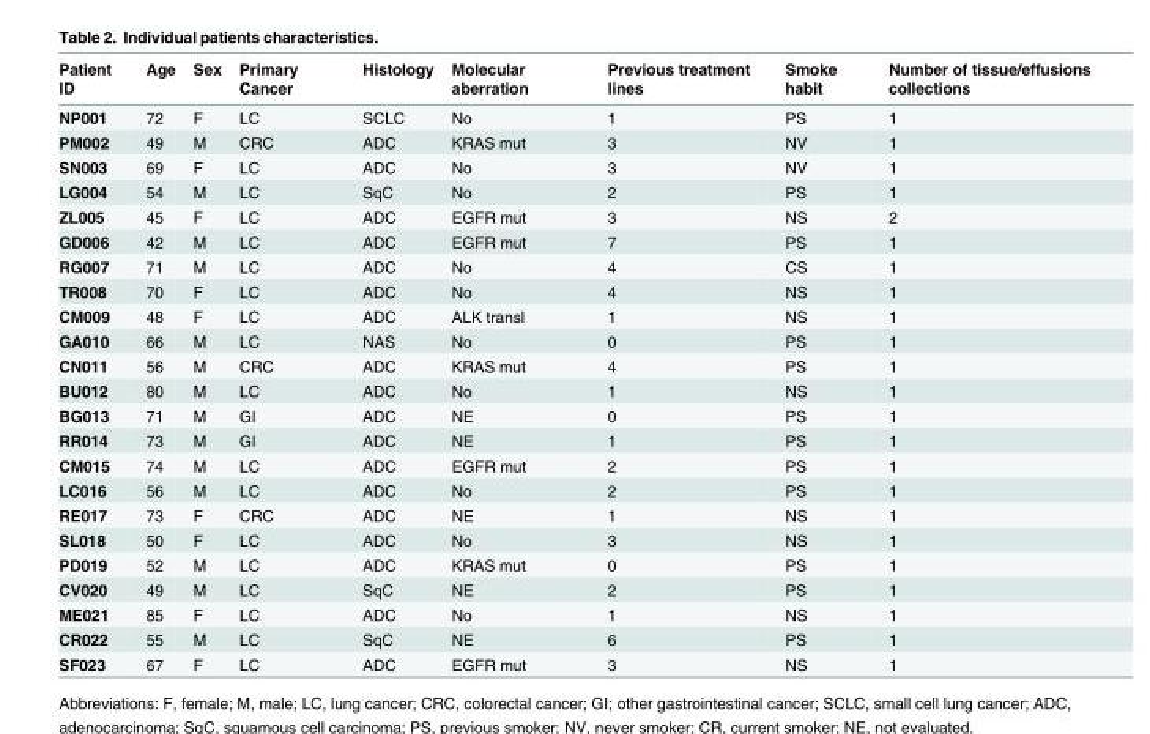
<table><thead><tr><td>Patient ID</td><td>Age</td><td>Sex</td><td>Primary Cancer</td><td>Histology</td><td>Molecular aberration</td><td>Previous treatment lines</td><td>Smoke habit</td><td>Number of tissue/effusions collections</td></tr></thead><tbody><tr><td>NP001</td><td>72</td><td>F</td><td>LC</td><td>SCLC</td><td>No</td><td>1</td><td>PS</td><td>1</td></tr><tr><td>PM002</td><td>49</td><td>M</td><td>CRC</td><td>ADC</td><td>KRAS mut</td><td>3</td><td>NV</td><td>1</td></tr><tr><td>SN003</td><td>69</td><td>F</td><td>LC</td><td>ADC</td><td>No</td><td>3</td><td>NV</td><td>1</td></tr><tr><td>LG004</td><td>54</td><td>M</td><td>LC</td><td>SqC</td><td>No</td><td>2</td><td>PS</td><td>1</td></tr><tr><td>ZL005</td><td>45</td><td>F</td><td>LC</td><td>ADC</td><td>EGFR mut</td><td>3</td><td>NS</td><td>2</td></tr><tr><td>GD006</td><td>42</td><td>M</td><td>LC</td><td>ADC</td><td>EGFR mut</td><td>7</td><td>PS</td><td>1</td></tr><tr><td>RG007</td><td>71</td><td>M</td><td>LC</td><td>ADC</td><td>No</td><td>4</td><td>CS</td><td>1</td></tr><tr><td>TR008</td><td>70</td><td>F</td><td>LC</td><td>ADC</td><td>No</td><td>4</td><td>NS</td><td>1</td></tr><tr><td>CM009</td><td>48</td><td>F</td><td>LC</td><td>ADC</td><td>ALK transl</td><td>1</td><td>NS</td><td>1</td></tr><tr><td>GA010</td><td>66</td><td>M</td><td>LC</td><td>NAS</td><td>No</td><td>0</td><td>PS</td><td>1</td></tr><tr><td>CN011</td><td>56</td><td>M</td><td>CRC</td><td>ADC</td><td>KRAS mut</td><td>4</td><td>PS</td><td>1</td></tr><tr><td>BU012</td><td>80</td><td>M</td><td>LC</td><td>ADC</td><td>No</td><td>1</td><td>NS</td><td>1</td></tr><tr><td>BG013</td><td>71</td><td>M</td><td>GI</td><td>ADC</td><td>NE</td><td>0</td><td>PS</td><td>1</td></tr><tr><td>RR014</td><td>73</td><td>M</td><td>GI</td><td>ADC</td><td>NE</td><td>1</td><td>PS</td><td>1</td></tr><tr><td>CM015</td><td>74</td><td>M</td><td>LC</td><td>ADC</td><td>EGFR mut</td><td>2</td><td>PS</td><td>1</td></tr><tr><td>LC016</td><td>56</td><td>M</td><td>LC</td><td>ADC</td><td>No</td><td>2</td><td>PS</td><td>1</td></tr><tr><td>RE017</td><td>73</td><td>F</td><td>CRC</td><td>ADC</td><td>NE</td><td>1</td><td>NS</td><td>1</td></tr><tr><td>SL018</td><td>50</td><td>F</td><td>LC</td><td>ADC</td><td>No</td><td>3</td><td>NS</td><td>1</td></tr><tr><td>PD019</td><td>52</td><td>M</td><td>LC</td><td>ADC</td><td>KRAS mut</td><td>0</td><td>PS</td><td>1</td></tr><tr><td>CV020</td><td>49</td><td>M</td><td>LC</td><td>SqC</td><td>NE</td><td>2</td><td>PS</td><td>1</td></tr><tr><td>ME021</td><td>85</td><td>F</td><td>LC</td><td>ADC</td><td>No</td><td>1</td><td>NS</td><td>1</td></tr><tr><td>CR022</td><td>55</td><td>M</td><td>LC</td><td>SqC</td><td>NE</td><td>6</td><td>PS</td><td>1</td></tr><tr><td>SF023</td><td>67</td><td>F</td><td>LC</td><td>ADC</td><td>EGFR mut</td><td>3</td><td>NS</td><td>1</td></tr></tbody></table>